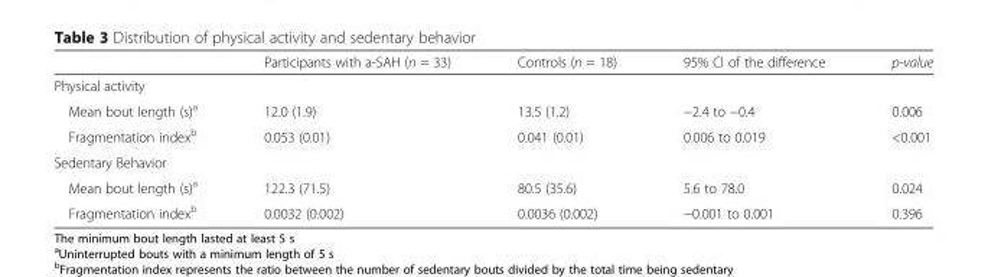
<table><thead><tr><td></td><td>Participants with a-SAH (n = 33)</td><td>Controls (n = 18)</td><td>95% CI of the difference</td><td>p-value</td></tr></thead><tbody><tr><td colspan="5">Physical activity</td></tr><tr><td>Mean bout length (s)<sup>a</sup></td><td>12.0 (1.9)</td><td>13.5 (1.2)</td><td>−2.4 to −0.4</td><td>0.006</td></tr><tr><td>Fragmentation index<sup>b</sup></td><td>0.053 (0.01)</td><td>0.041 (0.01)</td><td>0.006 to 0.019</td><td>&lt;0.001</td></tr><tr><td colspan="5">Sedentary Behavior</td></tr><tr><td>Mean bout length (s)<sup>a</sup></td><td>122.3 (71.5)</td><td>80.5 (35.6)</td><td>5.6 to 78.0</td><td>0.024</td></tr><tr><td>Fragmentation index<sup>b</sup></td><td>0.0032 (0.002)</td><td>0.0036 (0.002)</td><td>−0.001 to 0.001</td><td>0.396</td></tr></tbody></table>